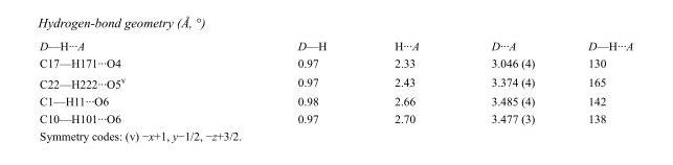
<table><tbody><tr><td>D—H···A</td><td>D—H</td><td>H···A</td><td>D···A</td><td>D—H···A</td></tr><tr><td>C17—H171···O4</td><td>0.97</td><td>2.33</td><td>3.046 (4)</td><td>130</td></tr><tr><td>C22—H222···O5<sup>v</sup></td><td>0.97</td><td>2.43</td><td>3.374 (4)</td><td>165</td></tr><tr><td>C1—H11···O6</td><td>0.98</td><td>2.66</td><td>3.485 (4)</td><td>142</td></tr><tr><td>C10—H101···O6</td><td>0.97</td><td>2.70</td><td>3.477 (3)</td><td>138</td></tr></tbody></table>